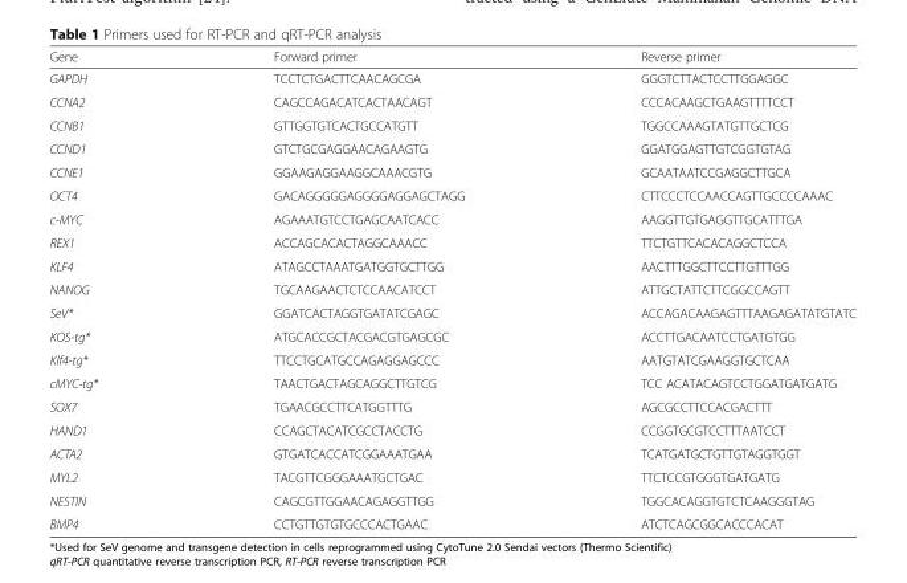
<table><thead><tr><td>Gene</td><td>Forward primer</td><td>Reverse primer</td></tr></thead><tbody><tr><td>GAPDH</td><td>TCCTCTGACTTCAACAGCGA</td><td>GGGTCTTACTCCTTGGAGGC</td></tr><tr><td>CCNA2</td><td>CAGCCAGACATCACTAACAGT</td><td>CCCACAAGCTGAAGTTTTCCT</td></tr><tr><td>CCNB1</td><td>GTTGGTGTCACTGCCATGTT</td><td>TGGCCAAAGTATGTTGCTCG</td></tr><tr><td>CCND1</td><td>GTCTGCGAGGAACAGAAGTG</td><td>GGATGGAGTTGTCGGTGTAG</td></tr><tr><td>CCNE1</td><td>GGAAGAGGAAGGCAAACGTG</td><td>GCAATAATCCGAGGCTTGCA</td></tr><tr><td>OCT4</td><td>GACAGGGGGAGGGGAGGAGCTAGG</td><td>CTTCCCTCCAACCAGTTGCCCCAAAC</td></tr><tr><td>c-MYC</td><td>AGAAATGTCCTGAGCAATCACC</td><td>AAGGTTGTGAGGTTGCATTTGA</td></tr><tr><td>REX1</td><td>ACCAGCACACTAGGCAAACC</td><td>TTCTGTTCACACAGGCTCCA</td></tr><tr><td>KLF4</td><td>ATAGCCTAAATGATGGTGCTTGG</td><td>AACTTTGGCTTCCTTGTTTGG</td></tr><tr><td>NANOG</td><td>TGCAAGAACTCTCCAACATCCT</td><td>ATTGCTATTCTTCGGCCAGTT</td></tr><tr><td>SeV*</td><td>GGATCACTAGGTGATATCGAGC</td><td>ACCAGACAAGAGTTTAAGAGATATGTATC</td></tr><tr><td>KOS-tg*</td><td>ATGCACCGCTACGACGTGAGCGC</td><td>ACCTTGACAATCCTGATGTGG</td></tr><tr><td>Klf4-tg*</td><td>TTCCTGCATGCCAGAGGAGCCC</td><td>AATGTATCGAAGGTGCTCAA</td></tr><tr><td>cMYC-tg*</td><td>TAACTGACTAGCAGGCTTGTCG</td><td>TCC ACATACAGTCCTGGATGATGATG</td></tr><tr><td>SOX7</td><td>TGAACGCCTTCATGGTTTG</td><td>AGCGCCTTCCACGACTTT</td></tr><tr><td>HAND1</td><td>CCAGCTACATCGCCTACCTG</td><td>CCGGTGCGTCCTTTAATCCT</td></tr><tr><td>ACTA2</td><td>GTGATCACCATCGGAAATGAA</td><td>TCATGATGCTGTTGTAGGTGGT</td></tr><tr><td>MYL2</td><td>TACGTTCGGGAAATGCTGAC</td><td>TTCTCCGTGGGTGATGATG</td></tr><tr><td>NESTIN</td><td>CAGCGTTGGAACAGAGGTTGG</td><td>TGGCACAGGTGTCTCAAGGGTAG</td></tr><tr><td>BMP4</td><td>CCTGTTGTGTGCCCACTGAAC</td><td>ATCTCAGCGGCACCCACAT</td></tr></tbody></table>